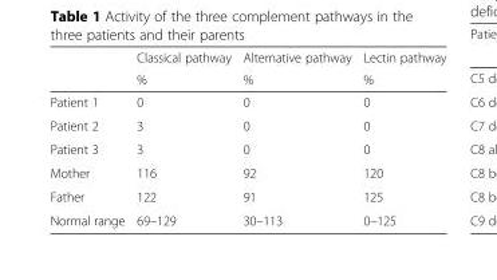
<table><thead><tr><td rowspan="2"></td><td rowspan="2">Classical pathway %</td><td rowspan="2">Alternative pathway %</td><td rowspan="2">Lectin pathway %</td></tr><tr></tr></thead><tbody><tr><td>Patient 1</td><td>0</td><td>0</td><td>0</td></tr><tr><td>Patient 2</td><td>3</td><td>0</td><td>0</td></tr><tr><td>Patient 3</td><td>3</td><td>0</td><td>0</td></tr><tr><td>Mother</td><td>116</td><td>92</td><td>120</td></tr><tr><td>Father</td><td>122</td><td>91</td><td>125</td></tr><tr><td>Normal range</td><td>69–129</td><td>30–113</td><td>0–125</td></tr></tbody></table>